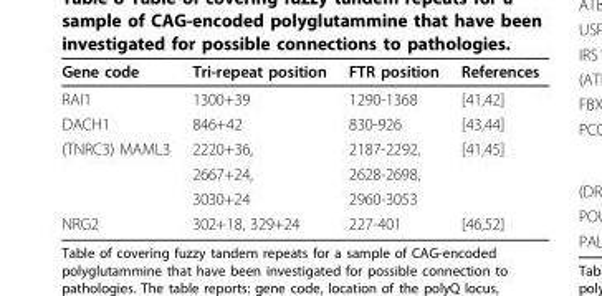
<table><thead><tr><td>Gene code</td><td>Tri-repeat position</td><td>FTR position</td><td>References</td></tr></thead><tbody><tr><td>RAI1</td><td>1300+39</td><td>1290-1368</td><td>[41,42]</td></tr><tr><td>DACH1</td><td>846+42</td><td>830-926</td><td>[43,44]</td></tr><tr><td rowspan="3">(TNRC3) MAML3</td><td>2220+36,</td><td>2187-2292,</td><td>[41,45]</td></tr><tr><td>2667+24,</td><td>2628-2698,</td><td></td></tr><tr><td>3030+24</td><td>2960-3053</td><td></td></tr><tr><td>NRG2</td><td>302+18, 329+24</td><td>227-401</td><td>[46,52]</td></tr></tbody></table>